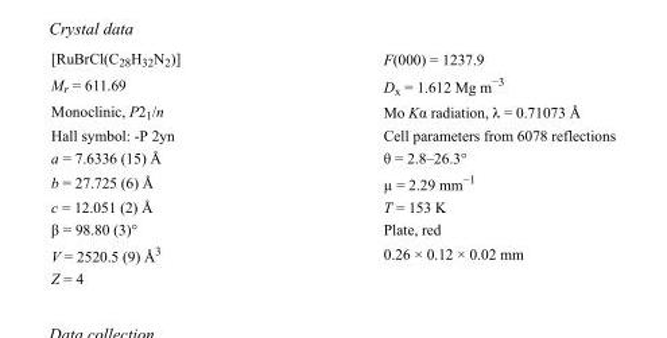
<table><tbody><tr><td>[RuBrCl(C<sub>28</sub>H<sub>32</sub>N<sub>2</sub>)]</td><td>F(000) = 1237.9</td></tr><tr><td>M<sub>r</sub> = 611.69</td><td>D<sub>x</sub> = 1.612 Mg m<sup>−3</sup></td></tr><tr><td>Monoclinic, P2<sub>1</sub>/n</td><td>Mo Kα radiation, λ = 0.71073 Å</td></tr><tr><td>Hall symbol: -P 2yn</td><td>Cell parameters from 6078 reflections</td></tr><tr><td>a = 7.6336 (15) Å</td><td>θ = 2.8–26.3°</td></tr><tr><td>b = 27.725 (6) Å</td><td>µ = 2.29 mm<sup>−1</sup></td></tr><tr><td>c = 12.051 (2) Å</td><td>T = 153 K</td></tr><tr><td>β = 98.80 (3)°</td><td>Plate, red</td></tr><tr><td>V = 2520.5 (9) Å<sup>3</sup></td><td>0.26 × 0.12 × 0.02 mm</td></tr><tr><td>Z = 4</td><td></td></tr></tbody></table>